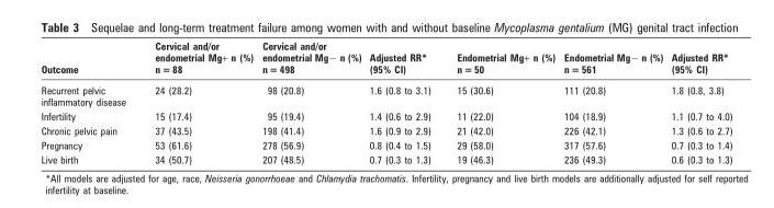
<table><thead><tr><td>Outcome</td><td>Cervical and/or endometrial Mg+ n (%) n = 88</td><td>Cervical and/or endometrial Mg− n (%) n = 498</td><td>Adjusted RR* (95% CI)</td><td>Endometrial Mg+ n (%) n = 50</td><td>Endometrial Mg− n (%) n = 561</td><td>Adjusted RR* (95% CI)</td></tr></thead><tbody><tr><td>Recurrent pelvic inflammatory disease</td><td>24 (28.2)</td><td>98 (20.8)</td><td>1.6 (0.8 to 3.1)</td><td>15 (30.6)</td><td>111 (20.8)</td><td>1.8 (0.8, 3.8)</td></tr><tr><td>Infertility</td><td>15 (17.4)</td><td>95 (19.4)</td><td>1.4 (0.6 to 2.9)</td><td>11 (22.0)</td><td>104 (18.9)</td><td>1.1 (0.7 to 4.0)</td></tr><tr><td>Chronic pelvic pain</td><td>37 (43.5)</td><td>198 (41.4)</td><td>1.6 (0.9 to 2.9)</td><td>21 (42.0)</td><td>226 (42.1)</td><td>1.3 (0.6 to 2.7)</td></tr><tr><td>Pregnancy</td><td>53 (61.6)</td><td>278 (56.9)</td><td>0.8 (0.4 to 1.5)</td><td>29 (58.0)</td><td>317 (57.6)</td><td>0.7 (0.3 to 1.4)</td></tr><tr><td>Live birth</td><td>34 (50.7)</td><td>207 (48.5)</td><td>0.7 (0.3 to 1.3)</td><td>19 (46.3)</td><td>236 (49.3)</td><td>0.6 (0.3 to 1.3)</td></tr></tbody></table>